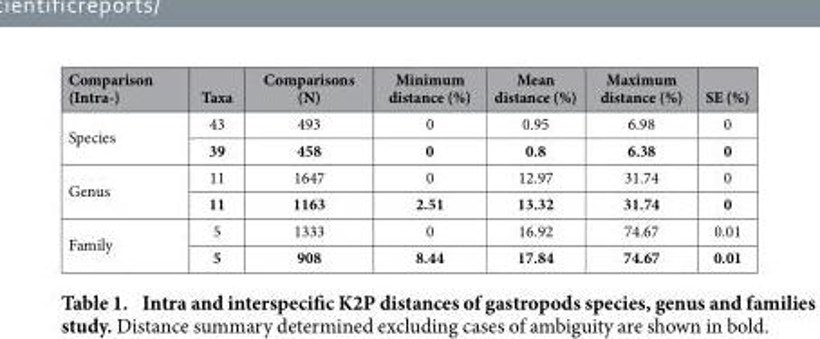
<table><thead><tr><td>Comparison (Intra-)</td><td>Taxa</td><td>Comparisons (N)</td><td>Minimum distance (%)</td><td>Mean distance (%)</td><td>Maximum distance (%)</td><td>SE (%)</td></tr></thead><tbody><tr><td rowspan="2">Species</td><td>43</td><td>493</td><td>0</td><td>0.95</td><td>6.98</td><td>0</td></tr><tr><td>39</td><td>458</td><td>0</td><td>0.8</td><td>6.38</td><td>0</td></tr><tr><td rowspan="2">Genus</td><td>11</td><td>1647</td><td>0</td><td>12.97</td><td>31.74</td><td>0</td></tr><tr><td>11</td><td>1163</td><td>2.51</td><td>13.32</td><td>31.74</td><td>0</td></tr><tr><td rowspan="2">Family</td><td>5</td><td>1333</td><td>0</td><td>16.92</td><td>74.67</td><td>0.01</td></tr><tr><td>5</td><td>908</td><td>8.44</td><td>17.84</td><td>74.67</td><td>0.01</td></tr></tbody></table>